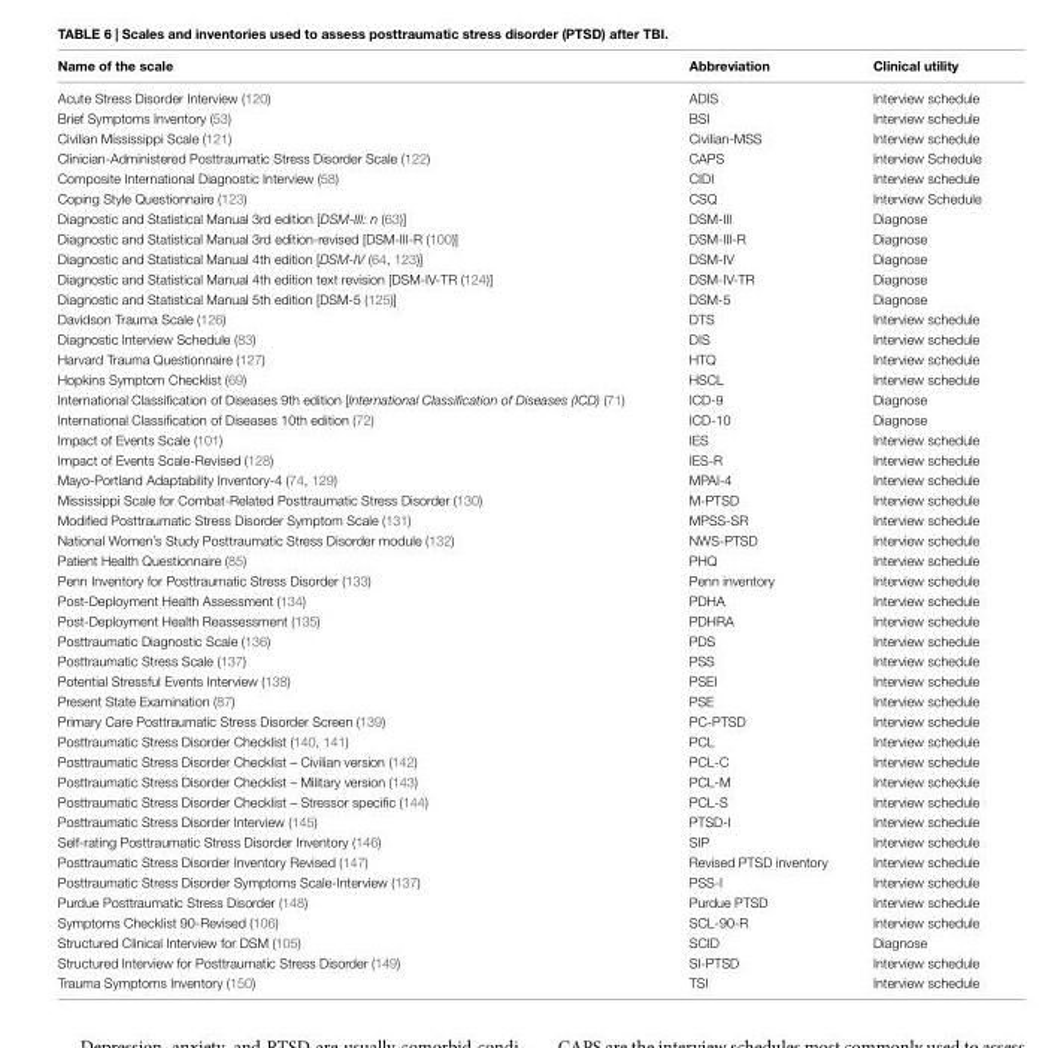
<table><thead><tr><td>Name of the scale</td><td>Abbreviation</td><td>Clinical utility</td></tr></thead><tbody><tr><td>Acute Stress Disorder Interview (120)</td><td>ADIS</td><td>Interview schedule</td></tr><tr><td>Brief Symptoms Inventory (53)</td><td>BSI</td><td>Interview schedule</td></tr><tr><td>Civilian Mississippi Scale (121)</td><td>Civilian-MSS</td><td>Interview schedule</td></tr><tr><td>Clinician-Administered Posttraumatic Stress Disorder Scale (122)</td><td>CAPS</td><td>Interview Schedule</td></tr><tr><td>Composite International Diagnostic Interview (58)</td><td>CIDI</td><td>Interview schedule</td></tr><tr><td>Coping Style Questionnaire (123)</td><td>CSQ</td><td>Interview Schedule</td></tr><tr><td>Diagnostic and Statistical Manual 3rd edition [DSM-III: n (63)]</td><td>DSM-III</td><td>Diagnose</td></tr><tr><td>Diagnostic and Statistical Manual 3rd edition-revised [DSM-III-R (100)]</td><td>DSM-III-R</td><td>Diagnose</td></tr><tr><td>Diagnostic and Statistical Manual 4th edition [DSM-IV (64, 123)]</td><td>DSM-IV</td><td>Diagnose</td></tr><tr><td>Diagnostic and Statistical Manual 4th edition text revision [DSM-IV-TR (124)]</td><td>DSM-IV-TR</td><td>Diagnose</td></tr><tr><td>Diagnostic and Statistical Manual 5th edition [DSM-5 (125)]</td><td>DSM-5</td><td>Diagnose</td></tr><tr><td>Davidson Trauma Scale (126)</td><td>DTS</td><td>Interview schedule</td></tr><tr><td>Diagnostic Interview Schedule (83)</td><td>DIS</td><td>Interview schedule</td></tr><tr><td>Harvard Trauma Questionnaire (127)</td><td>HTQ</td><td>Interview schedule</td></tr><tr><td>Hopkins Symptom Checklist (69)</td><td>HSCL</td><td>Interview schedule</td></tr><tr><td>International Classification of Diseases 9th edition [International Classification of Diseases (ICD) (71)</td><td>ICD-9</td><td>Diagnose</td></tr><tr><td>International Classification of Diseases 10th edition (72)</td><td>ICD-10</td><td>Diagnose</td></tr><tr><td>Impact of Events Scale (101)</td><td>IES</td><td>Interview schedule</td></tr><tr><td>Impact of Events Scale-Revised (128)</td><td>IES-R</td><td>Interview schedule</td></tr><tr><td>Mayo-Portland Adaptability Inventory-4 (74, 129)</td><td>MPAI-4</td><td>Interview schedule</td></tr><tr><td>Mississippi Scale for Combat-Related Posttraumatic Stress Disorder (130)</td><td>M-PTSD</td><td>Interview schedule</td></tr><tr><td>Modified Posttraumatic Stress Disorder Symptom Scale (131)</td><td>MPSS-SR</td><td>Interview schedule</td></tr><tr><td>National Women’s Study Posttraumatic Stress Disorder module (132)</td><td>NWS-PTSD</td><td>Interview schedule</td></tr><tr><td>Patient Health Questionnaire (85)</td><td>PHQ</td><td>Interview schedule</td></tr><tr><td>Penn Inventory for Posttraumatic Stress Disorder (133)</td><td>Penn inventory</td><td>Interview schedule</td></tr><tr><td>Post-Deployment Health Assessment (134)</td><td>PDHA</td><td>Interview schedule</td></tr><tr><td>Post-Deployment Health Reassessment (135)</td><td>PDHRA</td><td>Interview schedule</td></tr><tr><td>Posttraumatic Diagnostic Scale (136)</td><td>PDS</td><td>Interview schedule</td></tr><tr><td>Posttraumatic Stress Scale (137)</td><td>PSS</td><td>Interview schedule</td></tr><tr><td>Potential Stressful Events Interview (138)</td><td>PSEI</td><td>Interview schedule</td></tr><tr><td>Present State Examination (87)</td><td>PSE</td><td>Interview schedule</td></tr><tr><td>Primary Care Posttraumatic Stress Disorder Screen (139)</td><td>PC-PTSD</td><td>Interview schedule</td></tr><tr><td>Posttraumatic Stress Disorder Checklist (140, 141)</td><td>PCL</td><td>Interview schedule</td></tr><tr><td>Posttraumatic Stress Disorder Checklist – Civilian version (142)</td><td>PCL-C</td><td>Interview schedule</td></tr><tr><td>Posttraumatic Stress Disorder Checklist – Military version (143)</td><td>PCL-M</td><td>Interview schedule</td></tr><tr><td>Posttraumatic Stress Disorder Checklist – Stressor specific (144)</td><td>PCL-S</td><td>Interview schedule</td></tr><tr><td>Posttraumatic Stress Disorder Interview (145)</td><td>PTSD-I</td><td>Interview schedule</td></tr><tr><td>Self-rating Posttraumatic Stress Disorder Inventory (146)</td><td>SIP</td><td>Interview schedule</td></tr><tr><td>Posttraumatic Stress Disorder Inventory Revised (147)</td><td>Revised PTSD inventory</td><td>Interview schedule</td></tr><tr><td>Posttraumatic Stress Disorder Symptoms Scale-Interview (137)</td><td>PSS-I</td><td>Interview schedule</td></tr><tr><td>Purdue Posttraumatic Stress Disorder (148)</td><td>Purdue PTSD</td><td>Interview schedule</td></tr><tr><td>Symptoms Checklist 90-Revised (106)</td><td>SCL-90-R</td><td>Interview schedule</td></tr><tr><td>Structured Clinical Interview for DSM (105)</td><td>SCID</td><td>Diagnose</td></tr><tr><td>Structured Interview for Posttraumatic Stress Disorder (149)</td><td>SI-PTSD</td><td>Interview schedule</td></tr><tr><td>Trauma Symptoms Inventory (150)</td><td>TSI</td><td>Interview schedule</td></tr></tbody></table>